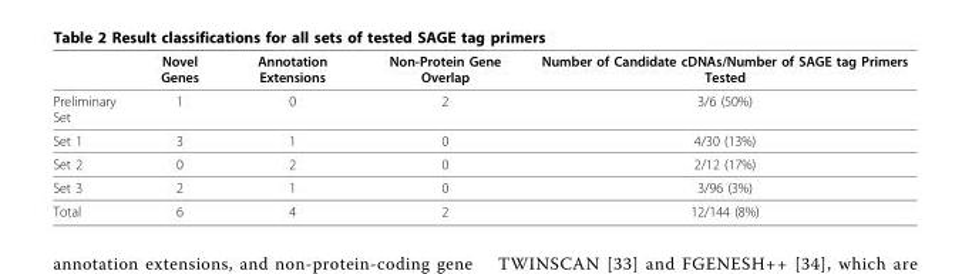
<table><thead><tr><td></td><td>Novel Genes</td><td>Annotation Extensions</td><td>Non-Protein Gene Overlap</td><td>Number of Candidate cDNAs/Number of SAGE tag Primers Tested</td></tr></thead><tbody><tr><td>Preliminary Set</td><td>1</td><td>0</td><td>2</td><td>3/6 (50%)</td></tr><tr><td>Set 1</td><td>3</td><td>1</td><td>0</td><td>4/30 (13%)</td></tr><tr><td>Set 2</td><td>0</td><td>2</td><td>0</td><td>2/12 (17%)</td></tr><tr><td>Set 3</td><td>2</td><td>1</td><td>0</td><td>3/96 (3%)</td></tr><tr><td>Total</td><td>6</td><td>4</td><td>2</td><td>12/144 (8%)</td></tr></tbody></table>